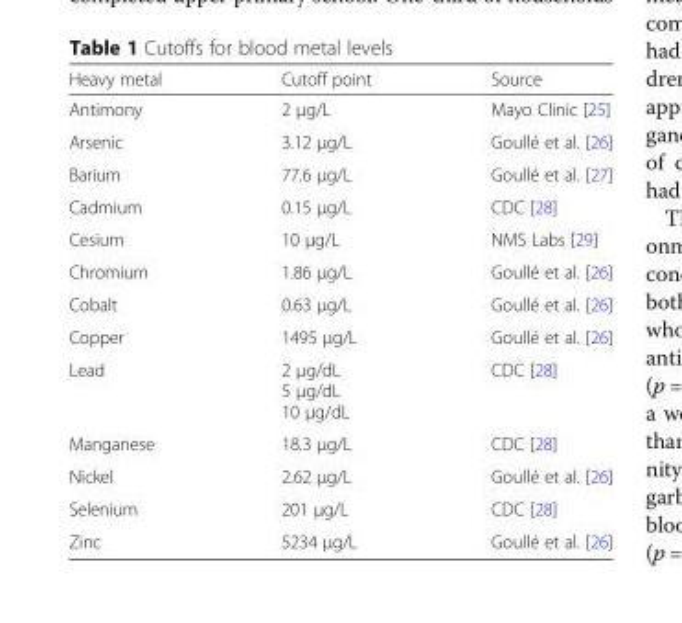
<table><thead><tr><td>Heavy metal</td><td>Cutoff point</td><td>Source</td></tr></thead><tbody><tr><td>Antimony</td><td>2 μg/L</td><td>Mayo Clinic [25]</td></tr><tr><td>Arsenic</td><td>3.12 μg/L</td><td>Goullé et al. [26]</td></tr><tr><td>Barium</td><td>77.6 μg/L</td><td>Goullé et al. [27]</td></tr><tr><td>Cadmium</td><td>0.15 μg/L</td><td>CDC [28]</td></tr><tr><td>Cesium</td><td>10 μg/L</td><td>NMS Labs [29]</td></tr><tr><td>Chromium</td><td>1.86 μg/L</td><td>Goullé et al. [26]</td></tr><tr><td>Cobalt</td><td>0.63 μg/L</td><td>Goullé et al. [26]</td></tr><tr><td>Copper</td><td>1495 μg/L</td><td>Goullé et al. [26]</td></tr><tr><td>Lead</td><td>2 μg/dL 5 μg/dL 10 μg/dL</td><td>CDC [28]</td></tr><tr><td>Manganese</td><td>18.3 μg/L</td><td>CDC [28]</td></tr><tr><td>Nickel</td><td>2.62 μg/L</td><td>Goullé et al. [26]</td></tr><tr><td>Selenium</td><td>201 μg/L</td><td>CDC [28]</td></tr><tr><td>Zinc</td><td>5234 μg/L</td><td>Goullé et al. [26]</td></tr></tbody></table>